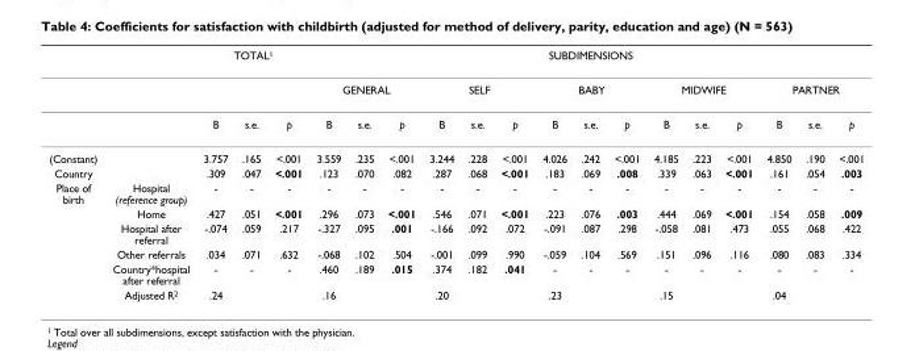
<table><thead><tr><td rowspan="3"></td><td rowspan="3"></td><td colspan="3">TOTAL<sup>1</sup></td><td colspan="15">SUBDIMENSIONS</td></tr><tr><td rowspan="2">B</td><td rowspan="2">s.e.</td><td rowspan="2">p</td><td colspan="3">GENERAL</td><td colspan="3">SELF</td><td colspan="3">BABY</td><td colspan="3">MIDWIFE</td><td colspan="3">PARTNER</td></tr><tr><td>B</td><td>s.e.</td><td>p</td><td>B</td><td>s.e.</td><td>p</td><td>B</td><td>s.e.</td><td>p</td><td>B</td><td>s.e.</td><td>p</td><td>B</td><td>s.e.</td><td>p</td></tr></thead><tbody><tr><td>(Constant)</td><td></td><td>3.757</td><td>.165</td><td>&lt;.001</td><td>3.559</td><td>.235</td><td>&lt;.001</td><td>3.244</td><td>.228</td><td>&lt;.001</td><td>4.026</td><td>.242</td><td>&lt;.001</td><td>4.185</td><td>.223</td><td>&lt;.001</td><td>4.850</td><td>.190</td><td>&lt;.001</td></tr><tr><td>Country</td><td></td><td>.309</td><td>.047</td><td>&lt;.001</td><td>.123</td><td>.070</td><td>.082</td><td>.287</td><td>.068</td><td>&lt;.001</td><td>.183</td><td>.069</td><td>.008</td><td>.339</td><td>.063</td><td>&lt;.001</td><td>.161</td><td>.054</td><td>.003</td></tr><tr><td rowspan="6">Place of birth</td><td>Hospital (reference group)</td><td>-</td><td>-</td><td>-</td><td>-</td><td>-</td><td>-</td><td>-</td><td>-</td><td>-</td><td>-</td><td>-</td><td>-</td><td>-</td><td>-</td><td>-</td><td>-</td><td>-</td><td>-</td></tr><tr><td>Home</td><td>.427</td><td>.051</td><td>&lt;.001</td><td>.296</td><td>.073</td><td>&lt;.001</td><td>.546</td><td>.071</td><td>&lt;.001</td><td>.223</td><td>.076</td><td>.003</td><td>.444</td><td>.069</td><td>&lt;.001</td><td>.154</td><td>.058</td><td>.009</td></tr><tr><td>Hospital after referral</td><td>-.074</td><td>.059</td><td>.217</td><td>-.327</td><td>.095</td><td>.001</td><td>-.166</td><td>.092</td><td>.072</td><td>-.091</td><td>.087</td><td>.298</td><td>-.058</td><td>.081</td><td>.473</td><td>.055</td><td>.068</td><td>.422</td></tr><tr><td>Other referrals</td><td>.034</td><td>.071</td><td>.632</td><td>-.068</td><td>.102</td><td>.504</td><td>-.001</td><td>.099</td><td>.990</td><td>-.059</td><td>.104</td><td>.569</td><td>.151</td><td>.096</td><td>.116</td><td>.080</td><td>.083</td><td>.334</td></tr><tr><td>Country*hospital after referral</td><td>-</td><td>-</td><td>-</td><td>.460</td><td>.189</td><td>.015</td><td>.374</td><td>.182</td><td>.041</td><td>-</td><td>-</td><td>-</td><td>-</td><td>-</td><td>-</td><td>-</td><td>-</td><td>-</td></tr><tr><td>Adjusted R<sup>2</sup></td><td colspan="3">.24</td><td colspan="3">.16</td><td colspan="3">.20</td><td colspan="3">.23</td><td colspan="3">.15</td><td colspan="3">.04</td></tr></tbody></table>